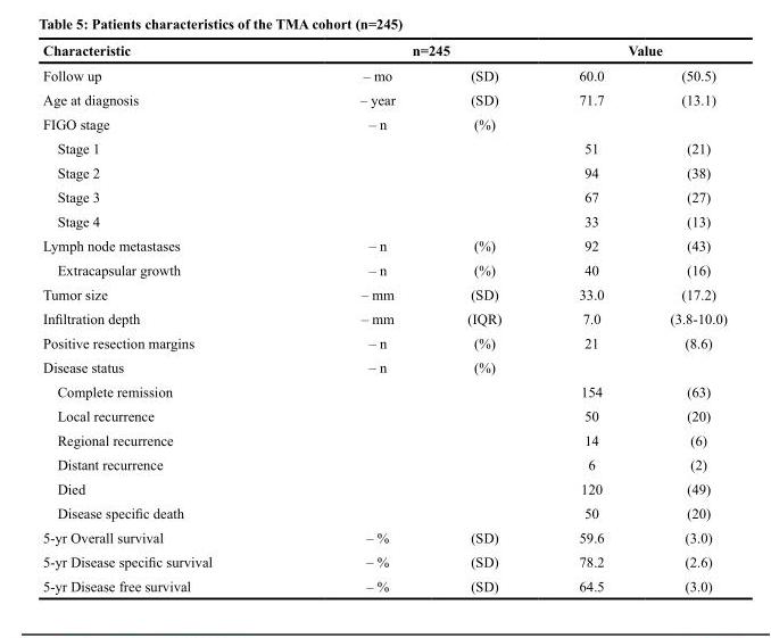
<table><thead><tr><td rowspan="2">Characteristic Follow up</td><td colspan="2">n=245</td><td colspan="2">Value</td></tr><tr><td>– mo</td><td>(SD)</td><td>60.0</td><td>(50.5)</td></tr></thead><tbody><tr><td>Age at diagnosis</td><td>– year</td><td>(SD)</td><td>71.7</td><td>(13.1)</td></tr><tr><td>FIGO stage</td><td>– n</td><td>(%)</td><td></td><td></td></tr><tr><td>Stage 1</td><td></td><td></td><td>51</td><td>(21)</td></tr><tr><td>Stage 2</td><td></td><td></td><td>94</td><td>(38)</td></tr><tr><td>Stage 3</td><td></td><td></td><td>67</td><td>(27)</td></tr><tr><td>Stage 4</td><td></td><td></td><td>33</td><td>(13)</td></tr><tr><td>Lymph node metastases</td><td>– n</td><td>(%)</td><td>92</td><td>(43)</td></tr><tr><td>Extracapsular growth</td><td>– n</td><td>(%)</td><td>40</td><td>(16)</td></tr><tr><td>Tumor size</td><td>– mm</td><td>(SD)</td><td>33.0</td><td>(17.2)</td></tr><tr><td>Infiltration depth</td><td>– mm</td><td>(IQR)</td><td>7.0</td><td>(3.8-10.0)</td></tr><tr><td>Positive resection margins</td><td>– n</td><td>(%)</td><td>21</td><td>(8.6)</td></tr><tr><td>Disease status</td><td>– n</td><td>(%)</td><td></td><td></td></tr><tr><td>Complete remission</td><td></td><td></td><td>154</td><td>(63)</td></tr><tr><td>Local recurrence</td><td></td><td></td><td>50</td><td>(20)</td></tr><tr><td>Regional recurrence</td><td></td><td></td><td>14</td><td>(6)</td></tr><tr><td>Distant recurrence</td><td></td><td></td><td>6</td><td>(2)</td></tr><tr><td>Died</td><td></td><td></td><td>120</td><td>(49)</td></tr><tr><td>Disease specific death</td><td></td><td></td><td>50</td><td>(20)</td></tr><tr><td>5-yr Overall survival</td><td>– %</td><td>(SD)</td><td>59.6</td><td>(3.0)</td></tr><tr><td>5-yr Disease specific survival</td><td>– %</td><td>(SD)</td><td>78.2</td><td>(2.6)</td></tr><tr><td>5-yr Disease free survival</td><td>– %</td><td>(SD)</td><td>64.5</td><td>(3.0)</td></tr></tbody></table>